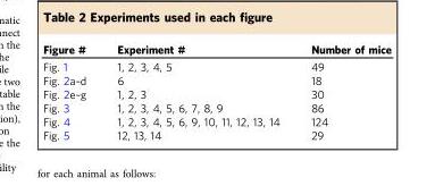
<table><thead><tr><td>Figure #</td><td>Experiment #</td><td>Number of mice</td></tr></thead><tbody><tr><td>Fig. 1</td><td>1, 2, 3, 4, 5</td><td>49</td></tr><tr><td>Fig. 2a–d</td><td>6</td><td>18</td></tr><tr><td>Fig. 2e–g</td><td>1, 2, 3</td><td>30</td></tr><tr><td>Fig. 3</td><td>1, 2, 3, 4, 5, 6, 7, 8, 9</td><td>86</td></tr><tr><td>Fig. 4</td><td>1, 2, 3, 4, 5, 6, 9, 10, 11, 12, 13, 14</td><td>124</td></tr><tr><td>Fig. 5</td><td>12, 13, 14</td><td>29</td></tr></tbody></table>